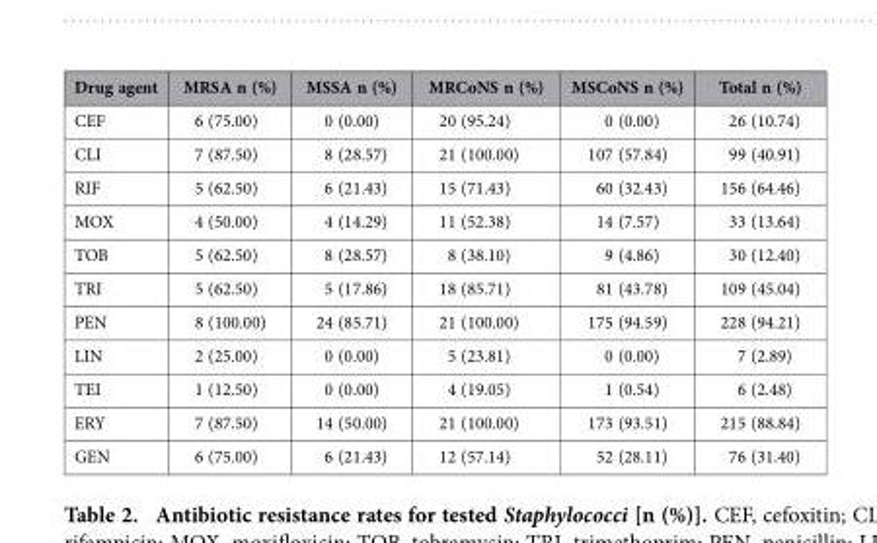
<table><thead><tr><td>Drug agent</td><td>MRSA n (%)</td><td>MSSA n (%)</td><td>MRCoNS n (%)</td><td>MSCoNS n (%)</td><td>Total n (%)</td></tr></thead><tbody><tr><td>CEF</td><td>6 (75.00)</td><td>0 (0.00)</td><td>20 (95.24)</td><td>0 (0.00)</td><td>26 (10.74)</td></tr><tr><td>CLI</td><td>7 (87.50)</td><td>8 (28.57)</td><td>21 (100.00)</td><td>107 (57.84)</td><td>99 (40.91)</td></tr><tr><td>RIF</td><td>5 (62.50)</td><td>6 (21.43)</td><td>15 (71.43)</td><td>60 (32.43)</td><td>156 (64.46)</td></tr><tr><td>MOX</td><td>4 (50.00)</td><td>4 (14.29)</td><td>11 (52.38)</td><td>14 (7.57)</td><td>33 (13.64)</td></tr><tr><td>TOB</td><td>5 (62.50)</td><td>8 (28.57)</td><td>8 (38.10)</td><td>9 (4.86)</td><td>30 (12.40)</td></tr><tr><td>TRI</td><td>5 (62.50)</td><td>5 (17.86)</td><td>18 (85.71)</td><td>81 (43.78)</td><td>109 (45.04)</td></tr><tr><td>PEN</td><td>8 (100.00)</td><td>24 (85.71)</td><td>21 (100.00)</td><td>175 (94.59)</td><td>228 (94.21)</td></tr><tr><td>LIN</td><td>2 (25.00)</td><td>0 (0.00)</td><td>5 (23.81)</td><td>0 (0.00)</td><td>7 (2.89)</td></tr><tr><td>TEI</td><td>1 (12.50)</td><td>0 (0.00)</td><td>4 (19.05)</td><td>1 (0.54)</td><td>6 (2.48)</td></tr><tr><td>ERY</td><td>7 (87.50)</td><td>14 (50.00)</td><td>21 (100.00)</td><td>173 (93.51)</td><td>215 (88.84)</td></tr><tr><td>GEN</td><td>6 (75.00)</td><td>6 (21.43)</td><td>12 (57.14)</td><td>52 (28.11)</td><td>76 (31.40)</td></tr></tbody></table>